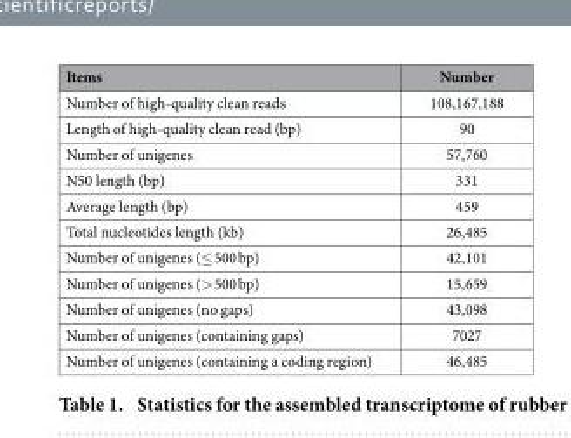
<table><thead><tr><td>Items</td><td>Number</td></tr></thead><tbody><tr><td>Number of high-quality clean reads</td><td>108,167,188</td></tr><tr><td>Length of high-quality clean read (bp)</td><td>90</td></tr><tr><td>Number of unigenes</td><td>57,760</td></tr><tr><td>N50 length (bp)</td><td>331</td></tr><tr><td>Average length (bp)</td><td>459</td></tr><tr><td>Total nucleotides length (kb)</td><td>26,485</td></tr><tr><td>Number of unigenes (≤ 500 bp)</td><td>42,101</td></tr><tr><td>Number of unigenes (&gt; 500 bp)</td><td>15,659</td></tr><tr><td>Number of unigenes (no gaps)</td><td>43,098</td></tr><tr><td>Number of unigenes (containing gaps)</td><td>7027</td></tr><tr><td>Number of unigenes (containing a coding region)</td><td>46,485</td></tr></tbody></table>